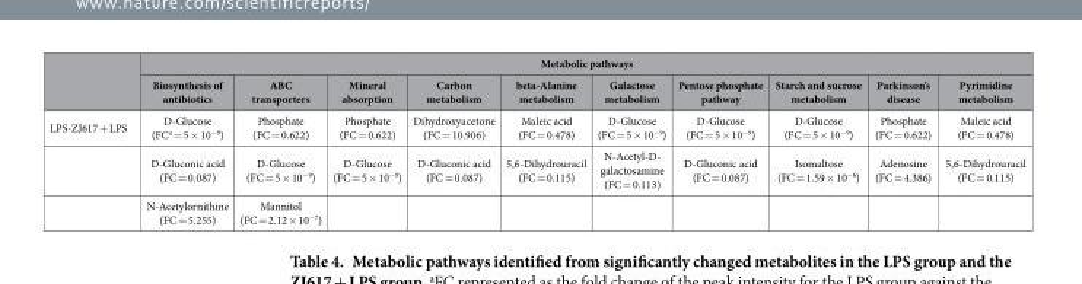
<table><thead><tr><td rowspan="2"></td><td colspan="10">Metabolic pathways</td></tr><tr><td>Biosynthesis of antibiotics</td><td>ABC transporters</td><td>Mineral absorption</td><td>Carbon metabolism</td><td>beta-Alanine metabolism</td><td>Galactose metabolism</td><td>Pentose phosphate pathway</td><td>Starch and sucrose metabolism</td><td>Parkinson’s disease</td><td>Pyrimidine metabolism</td></tr></thead><tbody><tr><td rowspan="3">LPS-ZJ617 + LPS</td><td>D-Glucose (FC<sup>a</sup> = 5 × 10<sup>−9</sup>)</td><td>Phosphate (FC = 0.622)</td><td>Phosphate (FC = 0.622)</td><td>Dihydroxyacetone (FC = 10.906)</td><td>Maleic acid (FC = 0.478)</td><td>D-Glucose (FC = 5 × 10<sup>−9</sup>)</td><td>D-Glucose (FC = 5 × 10<sup>−9</sup>)</td><td>D-Glucose (FC = 5 × 10<sup>−9</sup>)</td><td>Phosphate (FC = 0.622)</td><td>Maleic acid (FC = 0.478)</td></tr><tr><td>D-Gluconic acid (FC = 0.087)</td><td>D-Glucose (FC = 5 × 10<sup>−9</sup>)</td><td>D-Glucose (FC = 5 × 10<sup>−9</sup>)</td><td>D-Gluconic acid (FC = 0.087)</td><td>5,6-Dihydrouracil (FC = 0.115)</td><td>N-Acetyl-D- galactosamine (FC = 0.113)</td><td>D-Gluconic acid (FC = 0.087)</td><td>Isomaltose (FC = 1.59 × 10<sup>−6</sup>)</td><td>Adenosine (FC = 4.386)</td><td>5,6-Dihydrouracil (FC = 0.115)</td></tr><tr><td>N-Acetylornithine (FC = 5.255)</td><td>Mannitol (FC = 2.12 × 10<sup>−7</sup>)</td><td></td><td></td><td></td><td></td><td></td><td></td><td></td><td></td></tr></tbody></table>